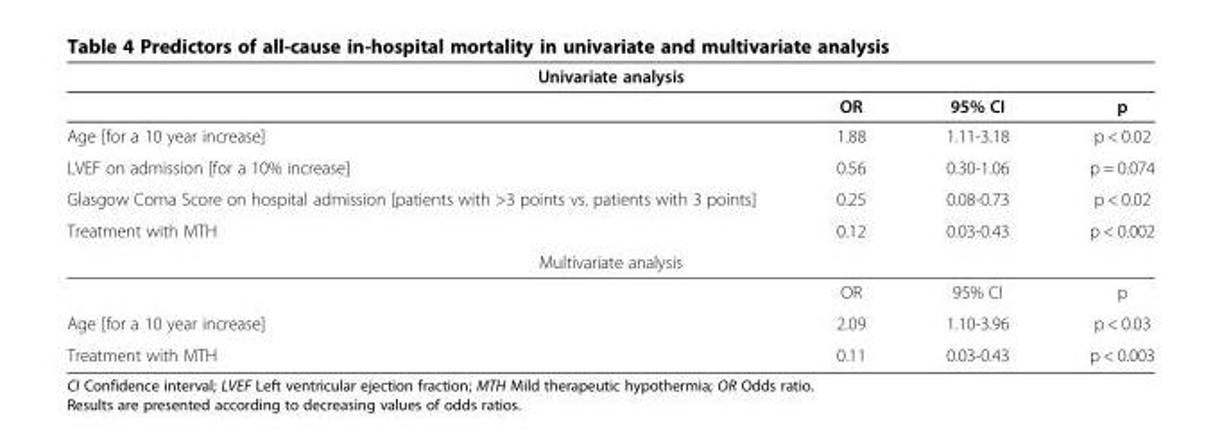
<table><thead><tr><td colspan="4">Univariate analysis</td></tr><tr><td></td><td>OR</td><td>95% CI</td><td>p</td></tr></thead><tbody><tr><td>Age [for a 10 year increase]</td><td>1.88</td><td>1.11-3.18</td><td>p &lt; 0.02</td></tr><tr><td>LVEF on admission [for a 10% increase]</td><td>0.56</td><td>0.30-1.06</td><td>p = 0.074</td></tr><tr><td>Glasgow Coma Score on hospital admission [patients with &gt;3 points vs. patients with 3 points]</td><td>0.25</td><td>0.08-0.73</td><td>p &lt; 0.02</td></tr><tr><td>Treatment with MTH</td><td>0.12</td><td>0.03-0.43</td><td>p &lt; 0.002</td></tr><tr><td colspan="4">Multivariate analysis</td></tr><tr><td></td><td>OR</td><td>95% CI</td><td>p</td></tr><tr><td>Age [for a 10 year increase]</td><td>2.09</td><td>1.10-3.96</td><td>p &lt; 0.03</td></tr><tr><td>Treatment with MTH</td><td>0.11</td><td>0.03-0.43</td><td>p &lt; 0.003</td></tr></tbody></table>